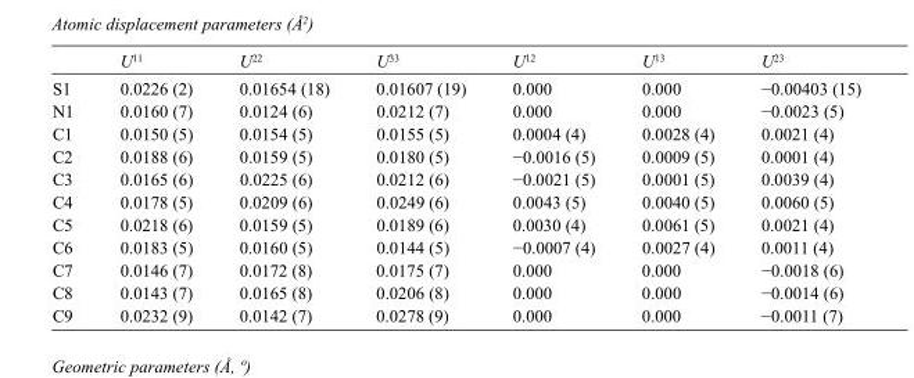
<table><thead><tr><td></td><td>U<sup>11</sup></td><td>U<sup>22</sup></td><td>U<sup>33</sup></td><td>U<sup>12</sup></td><td>U<sup>13</sup></td><td>U<sup>23</sup></td></tr></thead><tbody><tr><td>S1</td><td>0.0226 (2)</td><td>0.01654 (18)</td><td>0.01607 (19)</td><td>0.000</td><td>0.000</td><td>−0.00403 (15)</td></tr><tr><td>N1</td><td>0.0160 (7)</td><td>0.0124 (6)</td><td>0.0212 (7)</td><td>0.000</td><td>0.000</td><td>−0.0023 (5)</td></tr><tr><td>C1</td><td>0.0150 (5)</td><td>0.0154 (5)</td><td>0.0155 (5)</td><td>0.0004 (4)</td><td>0.0028 (4)</td><td>0.0021 (4)</td></tr><tr><td>C2</td><td>0.0188 (6)</td><td>0.0159 (5)</td><td>0.0180 (5)</td><td>−0.0016 (5)</td><td>0.0009 (5)</td><td>0.0001 (4)</td></tr><tr><td>C3</td><td>0.0165 (6)</td><td>0.0225 (6)</td><td>0.0212 (6)</td><td>−0.0021 (5)</td><td>0.0001 (5)</td><td>0.0039 (4)</td></tr><tr><td>C4</td><td>0.0178 (5)</td><td>0.0209 (6)</td><td>0.0249 (6)</td><td>0.0043 (5)</td><td>0.0040 (5)</td><td>0.0060 (5)</td></tr><tr><td>C5</td><td>0.0218 (6)</td><td>0.0159 (5)</td><td>0.0189 (6)</td><td>0.0030 (4)</td><td>0.0061 (5)</td><td>0.0021 (4)</td></tr><tr><td>C6</td><td>0.0183 (5)</td><td>0.0160 (5)</td><td>0.0144 (5)</td><td>−0.0007 (4)</td><td>0.0027 (4)</td><td>0.0011 (4)</td></tr><tr><td>C7</td><td>0.0146 (7)</td><td>0.0172 (8)</td><td>0.0175 (7)</td><td>0.000</td><td>0.000</td><td>−0.0018 (6)</td></tr><tr><td>C8</td><td>0.0143 (7)</td><td>0.0165 (8)</td><td>0.0206 (8)</td><td>0.000</td><td>0.000</td><td>−0.0014 (6)</td></tr><tr><td>C9</td><td>0.0232 (9)</td><td>0.0142 (7)</td><td>0.0278 (9)</td><td>0.000</td><td>0.000</td><td>−0.0011 (7)</td></tr></tbody></table>